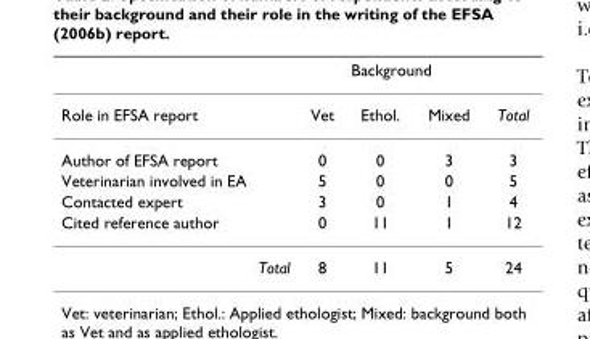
<table><thead><tr><td rowspan="2">Role in EFSA report</td><td colspan="3">Background</td><td rowspan="2">Total</td></tr><tr><td>Vet</td><td>Ethol.</td><td>Mixed</td></tr></thead><tbody><tr><td>Author of EFSA report</td><td>0</td><td>0</td><td>3</td><td>3</td></tr><tr><td>Veterinarian involved in EA</td><td>5</td><td>0</td><td>0</td><td>5</td></tr><tr><td>Contacted expert</td><td>3</td><td>0</td><td>1</td><td>4</td></tr><tr><td>Cited reference author</td><td>0</td><td>11</td><td>1</td><td>12</td></tr><tr><td>Total</td><td>8</td><td>11</td><td>5</td><td>24</td></tr></tbody></table>